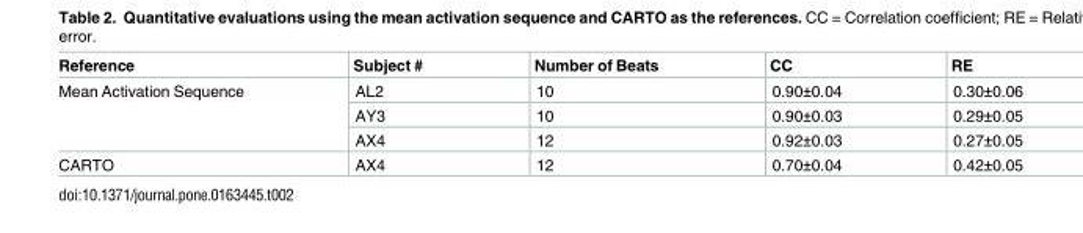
<table><thead><tr><td>Reference</td><td>Subject #</td><td>Number of Beats</td><td>CC</td><td>RE</td></tr></thead><tbody><tr><td rowspan="3">Mean Activation Sequence</td><td>AL2</td><td>10</td><td>0.90±0.04</td><td>0.30±0.06</td></tr><tr><td>AY3</td><td>10</td><td>0.90±0.03</td><td>0.29±0.05</td></tr><tr><td>AX4</td><td>12</td><td>0.92±0.03</td><td>0.27±0.05</td></tr><tr><td>CARTO</td><td>AX4</td><td>12</td><td>0.70±0.04</td><td>0.42±0.05</td></tr></tbody></table>